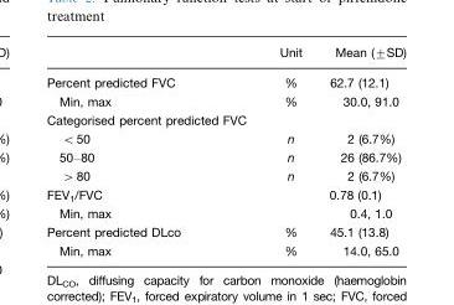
<table><thead><tr><td></td><td>Unit</td><td>Mean (±SD)</td></tr></thead><tbody><tr><td>Percent predicted FVC</td><td>%</td><td>62.7 (12.1)</td></tr><tr><td>Min, max</td><td>%</td><td>30.0, 91.0</td></tr><tr><td colspan="3">Categorised percent predicted FVC</td></tr><tr><td>&lt;50</td><td>n</td><td>2 (6.7%)</td></tr><tr><td>50–80</td><td>n</td><td>26 (86.7%)</td></tr><tr><td>&gt;80</td><td>n</td><td>2 (6.7%)</td></tr><tr><td>FEV<sub>1</sub>/FVC</td><td></td><td>0.78 (0.1)</td></tr><tr><td>Min, max</td><td></td><td>0.4, 1.0</td></tr><tr><td>Percent predicted DLco</td><td>%</td><td>45.1 (13.8)</td></tr><tr><td>Min, max</td><td>%</td><td>14.0, 65.0</td></tr></tbody></table>